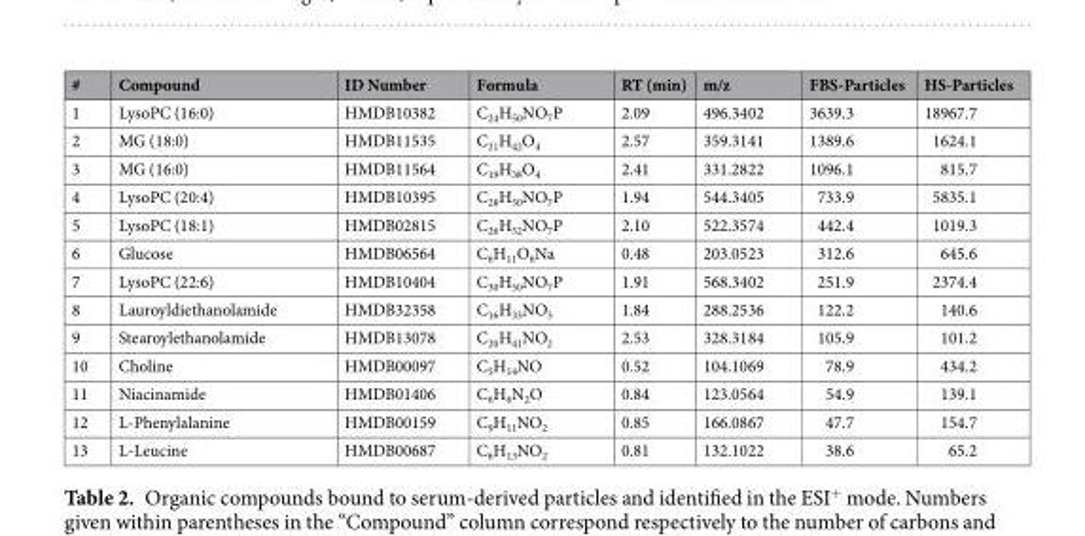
<table><thead><tr><td>#</td><td>Compound</td><td>ID Number</td><td>Formula</td><td>RT (min)</td><td>m/z</td><td>FBS-Particles</td><td>HS-Particles</td></tr></thead><tbody><tr><td>1</td><td>LysoPC (16:0)</td><td>HMDB10382</td><td>C<sub>24</sub>H<sub>50</sub>NO<sub>7</sub>P</td><td>2.09</td><td>496.3402</td><td>3639.3</td><td>18967.7</td></tr><tr><td>2</td><td>MG (18:0)</td><td>HMDB11535</td><td>C<sub>21</sub>H<sub>42</sub>O<sub>4</sub></td><td>2.57</td><td>359.3141</td><td>1389.6</td><td>1624.1</td></tr><tr><td>3</td><td>MG (16:0)</td><td>HMDB11564</td><td>C<sub>19</sub>H<sub>38</sub>O<sub>4</sub></td><td>2.41</td><td>331.2822</td><td>1096.1</td><td>815.7</td></tr><tr><td>4</td><td>LysoPC (20:4)</td><td>HMDB10395</td><td>C<sub>28</sub>H<sub>50</sub>NO<sub>7</sub>P</td><td>1.94</td><td>544.3405</td><td>733.9</td><td>5835.1</td></tr><tr><td>5</td><td>LysoPC (18:1)</td><td>HMDB02815</td><td>C<sub>26</sub>H<sub>52</sub>NO<sub>7</sub>P</td><td>2.10</td><td>522.3574</td><td>442.4</td><td>1019.3</td></tr><tr><td>6</td><td>Glucose</td><td>HMDB06564</td><td>C<sub>6</sub>H<sub>11</sub>O<sub>6</sub>Na</td><td>0.48</td><td>203.0523</td><td>312.6</td><td>645.6</td></tr><tr><td>7</td><td>LysoPC (22:6)</td><td>HMDB10404</td><td>C<sub>30</sub>H<sub>50</sub>NO<sub>7</sub>P</td><td>1.91</td><td>568.3402</td><td>251.9</td><td>2374.4</td></tr><tr><td>8</td><td>Lauroyldiethanolamide</td><td>HMDB32358</td><td>C<sub>16</sub>H<sub>33</sub>NO<sub>3</sub></td><td>1.84</td><td>288.2536</td><td>122.2</td><td>140.6</td></tr><tr><td>9</td><td>Stearoylethanolamide</td><td>HMDB13078</td><td>C<sub>20</sub>H<sub>41</sub>NO<sub>2</sub></td><td>2.53</td><td>328.3184</td><td>105.9</td><td>101.2</td></tr><tr><td>10</td><td>Choline</td><td>HMDB00097</td><td>C<sub>5</sub>H<sub>14</sub>NO</td><td>0.52</td><td>104.1069</td><td>78.9</td><td>434.2</td></tr><tr><td>11</td><td>Niacinamide</td><td>HMDB01406</td><td>C<sub>6</sub>H<sub>6</sub>N<sub>2</sub>O</td><td>0.84</td><td>123.0564</td><td>54.9</td><td>139.1</td></tr><tr><td>12</td><td>L-Phenylalanine</td><td>HMDB00159</td><td>C<sub>9</sub>H<sub>11</sub>NO<sub>2</sub></td><td>0.85</td><td>166.0867</td><td>47.7</td><td>154.7</td></tr><tr><td>13</td><td>L-Leucine</td><td>HMDB00687</td><td>C<sub>6</sub>H<sub>13</sub>NO<sub>2</sub></td><td>0.81</td><td>132.1022</td><td>38.6</td><td>65.2</td></tr></tbody></table>